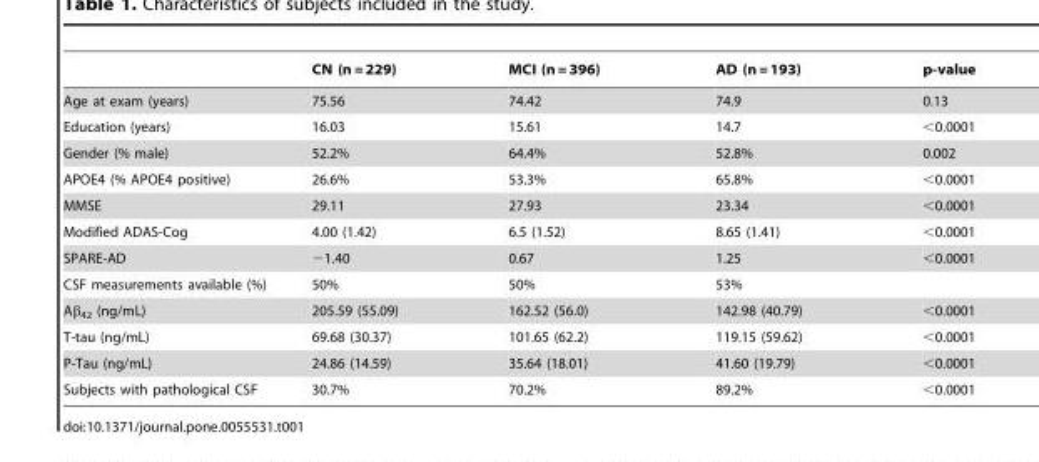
<table><thead><tr><td></td><td>CN (n = 229)</td><td>MCI (n = 396)</td><td>AD (n = 193)</td><td>p-value</td></tr></thead><tbody><tr><td>Age at exam (years)</td><td>75.56</td><td>74.42</td><td>74.9</td><td>0.13</td></tr><tr><td>Education (years)</td><td>16.03</td><td>15.61</td><td>14.7</td><td>&lt;0.0001</td></tr><tr><td>Gender (% male)</td><td>52.2%</td><td>64.4%</td><td>52.8%</td><td>0.002</td></tr><tr><td>APOE4 (% APOE4 positive)</td><td>26.6%</td><td>53.3%</td><td>65.8%</td><td>&lt;0.0001</td></tr><tr><td>MMSE</td><td>29.11</td><td>27.93</td><td>23.34</td><td>&lt;0.0001</td></tr><tr><td>Modified ADAS-Cog</td><td>4.00 (1.42)</td><td>6.5 (1.52)</td><td>8.65 (1.41)</td><td>&lt;0.0001</td></tr><tr><td>SPARE-AD</td><td>−1.40</td><td>0.67</td><td>1.25</td><td>&lt;0.0001</td></tr><tr><td>CSF measurements available (%)</td><td>50%</td><td>50%</td><td>53%</td><td></td></tr><tr><td>Aβ<sub>42</sub> (ng/mL)</td><td>205.59 (55.09)</td><td>162.52 (56.0)</td><td>142.98 (40.79)</td><td>&lt;0.0001</td></tr><tr><td>T-tau (ng/mL)</td><td>69.68 (30.37)</td><td>101.65 (62.2)</td><td>119.15 (59.62)</td><td>&lt;0.0001</td></tr><tr><td>P-Tau (ng/mL)</td><td>24.86 (14.59)</td><td>35.64 (18.01)</td><td>41.60 (19.79)</td><td>&lt;0.0001</td></tr><tr><td>Subjects with pathological CSF</td><td>30.7%</td><td>70.2%</td><td>89.2%</td><td>&lt;0.0001</td></tr></tbody></table>